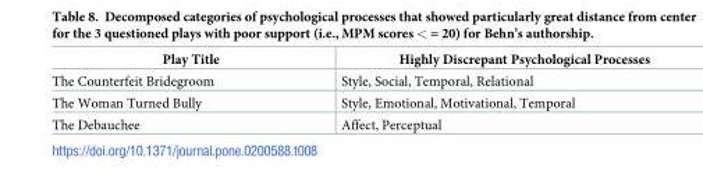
<table><thead><tr><td>Play Title</td><td>Highly Discrepant Psychological Processes</td></tr></thead><tbody><tr><td>The Counterfeit Bridegroom</td><td>Style, Social, Temporal, Relational</td></tr><tr><td>The Woman Turned Bully</td><td>Style, Emotional, Motivational, Temporal</td></tr><tr><td>The Debauchee</td><td>Affect, Perceptual</td></tr></tbody></table>